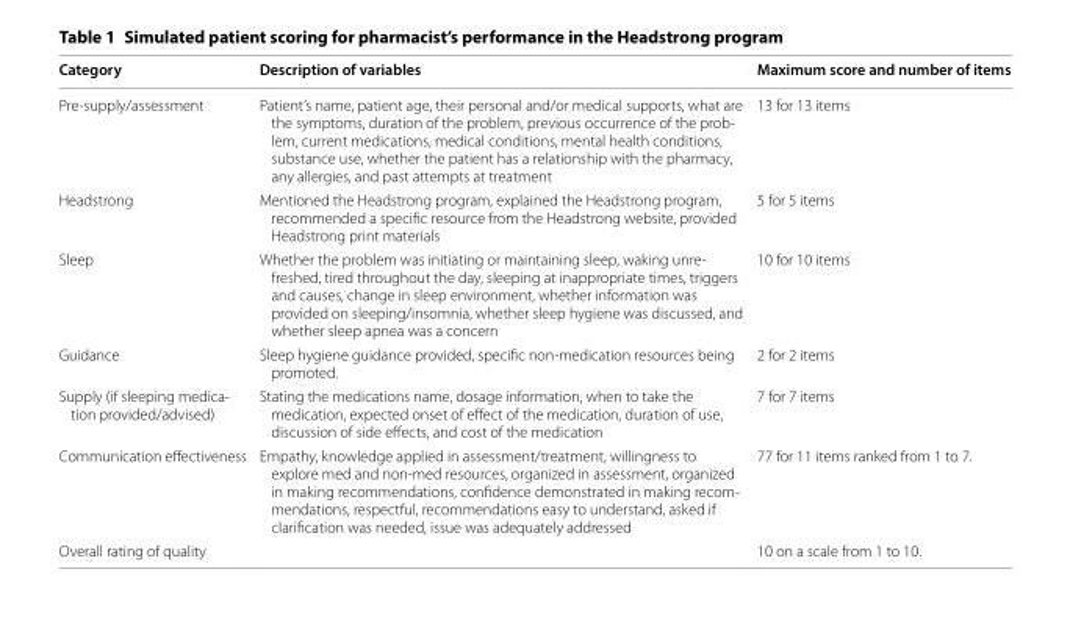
<table><thead><tr><td>Category</td><td>Description of variables</td><td>Maximum score and number of items</td></tr></thead><tbody><tr><td>Pre-supply/assessment</td><td>Patient’s name, patient age, their personal and/or medical supports, what are the symptoms, duration of the problem, previous occurrence of the prob- lem, current medications, medical conditions, mental health conditions, substance use, whether the patient has a relationship with the pharmacy, any allergies, and past attempts at treatment</td><td>13 for 13 items</td></tr><tr><td>Headstrong</td><td>Mentioned the Headstrong program, explained the Headstrong program, recommended a specific resource from the Headstrong website, provided Headstrong print materials</td><td>5 for 5 items</td></tr><tr><td>Sleep</td><td>Whether the problem was initiating or maintaining sleep, waking unre- freshed, tired throughout the day, sleeping at inappropriate times, triggers and causes, change in sleep environment, whether information was provided on sleeping/insomnia, whether sleep hygiene was discussed, and whether sleep apnea was a concern</td><td>10 for 10 items</td></tr><tr><td>Guidance</td><td>Sleep hygiene guidance provided, specific non-medication resources being promoted.</td><td>2 for 2 items</td></tr><tr><td>Supply (if sleeping medica- tion provided/advised)</td><td>Stating the medications name, dosage information, when to take the medication, expected onset of effect of the medication, duration of use, discussion of side effects, and cost of the medication</td><td>7 for 7 items</td></tr><tr><td>Communication effectiveness</td><td>Empathy, knowledge applied in assessment/treatment, willingness to explore med and non-med resources, organized in assessment, organized in making recommendations, confidence demonstrated in making recom- mendations, respectful, recommendations easy to understand, asked if clarification was needed, issue was adequately addressed</td><td>77 for 11 items ranked from 1 to 7.</td></tr><tr><td>Overall rating of quality</td><td></td><td>10 on a scale from 1 to 10.</td></tr></tbody></table>